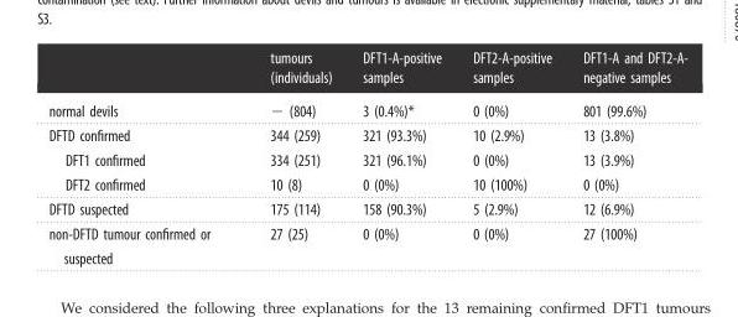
<table><thead><tr><td></td><td>tumours (individuals)</td><td>DFT1-A-positive samples</td><td>DFT2-A-positive samples</td><td>DFT1-A and DFT2-A- negative samples</td></tr></thead><tbody><tr><td>normal devils</td><td>− (804)</td><td>3 (0.4%)*</td><td>0 (0%)</td><td>801 (99.6%)</td></tr><tr><td>DFTD confirmed</td><td>344 (259)</td><td>321 (93.3%)</td><td>10 (2.9%)</td><td>13 (3.8%)</td></tr><tr><td>DFT1 confirmed</td><td>334 (251)</td><td>321 (96.1%)</td><td>0 (0%)</td><td>13 (3.9%)</td></tr><tr><td>DFT2 confirmed</td><td>10 (8)</td><td>0 (0%)</td><td>10 (100%)</td><td>0 (0%)</td></tr><tr><td>DFTD suspected</td><td>175 (114)</td><td>158 (90.3%)</td><td>5 (2.9%)</td><td>12 (6.9%)</td></tr><tr><td>non-DFTD tumour confirmed or suspected</td><td>27 (25)</td><td>0 (0%)</td><td>0 (0%)</td><td>27 (100%)</td></tr></tbody></table>